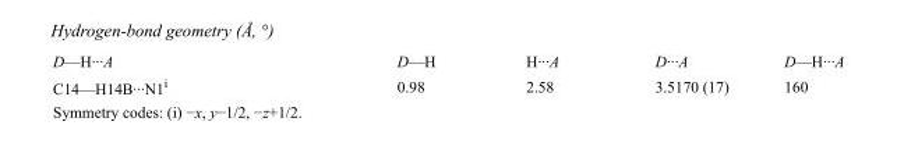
<table><tbody><tr><td>D—H···A</td><td>D—H</td><td>H···A</td><td>D···A</td><td>D—H···A</td></tr><tr><td>C14—H14B···N1<sup>i</sup></td><td>0.98</td><td>2.58</td><td>3.5170 (17)</td><td>160</td></tr></tbody></table>